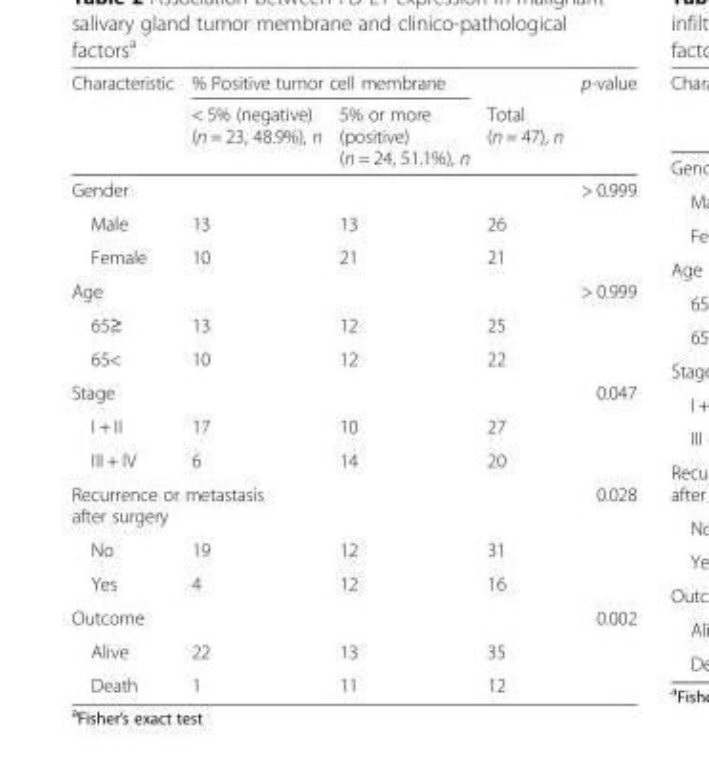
<table><thead><tr><td rowspan="2">Characteristic</td><td colspan="2">% Positive tumor cell membrane</td><td rowspan="2">Total (n = 47)‚ n</td><td rowspan="2">p-value</td></tr><tr><td>&lt; 5% (negative) (n = 23, 48.9%), n</td><td>5% or more (positive) (n = 24, 51.1%), n</td></tr></thead><tbody><tr><td>Gender</td><td></td><td></td><td></td><td>&gt; 0.999</td></tr><tr><td>Male</td><td>13</td><td>13</td><td>26</td><td></td></tr><tr><td>Female</td><td>10</td><td>21</td><td>21</td><td></td></tr><tr><td>Age</td><td></td><td></td><td></td><td>&gt; 0.999</td></tr><tr><td>65≥</td><td>13</td><td>12</td><td>25</td><td></td></tr><tr><td>65&lt;</td><td>10</td><td>12</td><td>22</td><td></td></tr><tr><td>Stage</td><td></td><td></td><td></td><td>0.047</td></tr><tr><td>I + II</td><td>17</td><td>10</td><td>27</td><td></td></tr><tr><td>III + IV</td><td>6</td><td>14</td><td>20</td><td></td></tr><tr><td colspan="2">Recurrence or metastasis after surgery</td><td></td><td></td><td>0.028</td></tr><tr><td>No</td><td>19</td><td>12</td><td>31</td><td></td></tr><tr><td>Yes</td><td>4</td><td>12</td><td>16</td><td></td></tr><tr><td>Outcome</td><td></td><td></td><td></td><td>0.002</td></tr><tr><td>Alive</td><td>22</td><td>13</td><td>35</td><td></td></tr><tr><td>Death</td><td>1</td><td>11</td><td>12</td><td></td></tr></tbody></table>